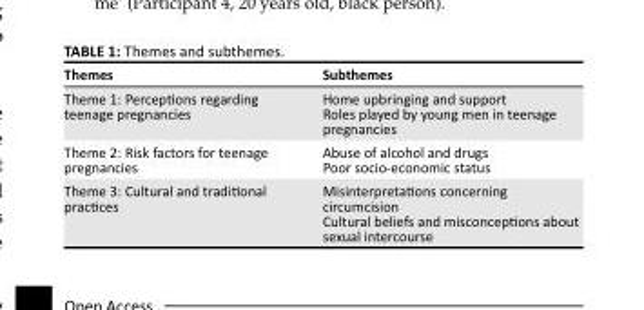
<table><thead><tr><td>Themes</td><td>Subthemes</td></tr></thead><tbody><tr><td>Theme 1: Perceptions regarding teenage pregnancies</td><td>Home upbringing and support Roles played by young men in teenage pregnancies</td></tr><tr><td>Theme 2: Risk factors for teenage pregnancies</td><td>Abuse of alcohol and drugs Poor socio-economic status</td></tr><tr><td>Theme 3: Cultural and traditional practices</td><td>Misinterpretations concerning circumcision Cultural beliefs and misconceptions about sexual intercourse</td></tr></tbody></table>